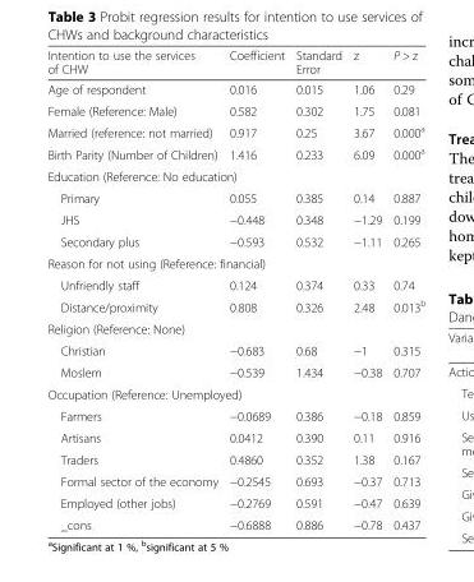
<table><thead><tr><td>Intention to use the services of CHW</td><td>Coefficient</td><td>Standard Error</td><td>z</td><td>P &gt; z</td></tr></thead><tbody><tr><td>Age of respondent</td><td>0.016</td><td>0.015</td><td>1.06</td><td>0.29</td></tr><tr><td>Female (Reference: Male)</td><td>0.582</td><td>0.302</td><td>1.75</td><td>0.081</td></tr><tr><td>Married (reference: not married)</td><td>0.917</td><td>0.25</td><td>3.67</td><td>0.000<sup>a</sup></td></tr><tr><td>Birth Parity (Number of Children)</td><td>1.416</td><td>0.233</td><td>6.09</td><td>0.000<sup>a</sup></td></tr><tr><td colspan="5">Education (Reference: No education)</td></tr><tr><td>Primary</td><td>0.055</td><td>0.385</td><td>0.14</td><td>0.887</td></tr><tr><td>JHS</td><td>−0.448</td><td>0.348</td><td>−1.29</td><td>0.199</td></tr><tr><td>Secondary plus</td><td>−0.593</td><td>0.532</td><td>−1.11</td><td>0.265</td></tr><tr><td colspan="5">Reason for not using (Reference: financial)</td></tr><tr><td>Unfriendly staff</td><td>0.124</td><td>0.374</td><td>0.33</td><td>0.74</td></tr><tr><td>Distance/proximity</td><td>0.808</td><td>0.326</td><td>2.48</td><td>0.013<sup>b</sup></td></tr><tr><td colspan="5">Religion (Reference: None)</td></tr><tr><td>Christian</td><td>−0.683</td><td>0.68</td><td>−1</td><td>0.315</td></tr><tr><td>Moslem</td><td>−0.539</td><td>1.434</td><td>−0.38</td><td>0.707</td></tr><tr><td colspan="5">Occupation (Reference: Unemployed)</td></tr><tr><td>Farmers</td><td>−0.0689</td><td>0.386</td><td>−0.18</td><td>0.859</td></tr><tr><td>Artisans</td><td>0.0412</td><td>0.390</td><td>0.11</td><td>0.916</td></tr><tr><td>Traders</td><td>0.4860</td><td>0.352</td><td>1.38</td><td>0.167</td></tr><tr><td>Formal sector of the economy</td><td>−0.2545</td><td>0.693</td><td>−0.37</td><td>0.713</td></tr><tr><td>Employed (other jobs)</td><td>−0.2769</td><td>0.591</td><td>−0.47</td><td>0.639</td></tr><tr><td>_cons</td><td>−0.6888</td><td>0.886</td><td>−0.78</td><td>0.437</td></tr></tbody></table>